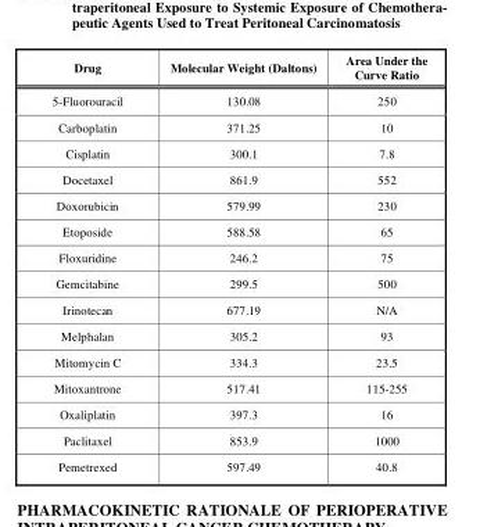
<table><thead><tr><td>Drug</td><td>Molecular Weight (Daltons)</td><td>Area Under the Curve Ratio</td></tr></thead><tbody><tr><td>5-Fluorouracil</td><td>130.08</td><td>250</td></tr><tr><td>Carboplatin</td><td>371.25</td><td>10</td></tr><tr><td>Cisplatin</td><td>300.1</td><td>7.8</td></tr><tr><td>Docetaxel</td><td>861.9</td><td>552</td></tr><tr><td>Doxorubicin</td><td>579.99</td><td>230</td></tr><tr><td>Etoposide</td><td>588.58</td><td>65</td></tr><tr><td>Floxuridine</td><td>246.2</td><td>75</td></tr><tr><td>Gemcitabine</td><td>299.5</td><td>500</td></tr><tr><td>Irinotecan</td><td>677.19</td><td>N/A</td></tr><tr><td>Melphalan</td><td>305.2</td><td>93</td></tr><tr><td>Mitomycin C</td><td>334.3</td><td>23.5</td></tr><tr><td>Mitoxantrone</td><td>517.41</td><td>115-255</td></tr><tr><td>Oxaliplatin</td><td>397.3</td><td>16</td></tr><tr><td>Paclitaxel</td><td>853.9</td><td>1000</td></tr><tr><td>Pemetrexed</td><td>597.49</td><td>40.8</td></tr></tbody></table>